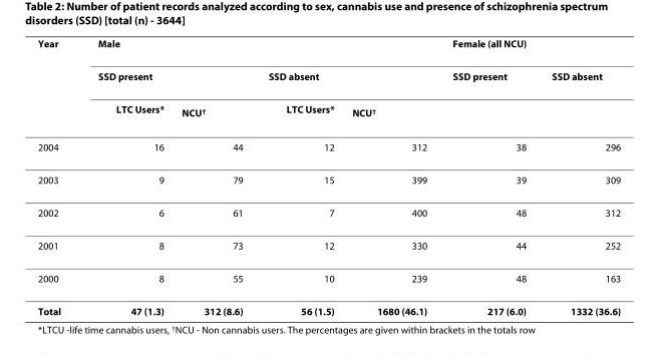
<table><thead><tr><td rowspan="3">Year</td><td colspan="4">Male</td><td colspan="2">Female (all NCU)</td></tr><tr><td colspan="2">SSD present</td><td colspan="2">SSD absent</td><td rowspan="2">SSD present</td><td rowspan="2">SSD absent</td></tr><tr><td>LTC Users*</td><td>NCU<sup>†</sup></td><td>LTC Users*</td><td>NCU<sup>†</sup></td></tr></thead><tbody><tr><td>2004</td><td>16</td><td>44</td><td>12</td><td>312</td><td>38</td><td>296</td></tr><tr><td>2003</td><td>9</td><td>79</td><td>15</td><td>399</td><td>39</td><td>309</td></tr><tr><td>2002</td><td>6</td><td>61</td><td>7</td><td>400</td><td>48</td><td>312</td></tr><tr><td>2001</td><td>8</td><td>73</td><td>12</td><td>330</td><td>44</td><td>252</td></tr><tr><td>2000</td><td>8</td><td>55</td><td>10</td><td>239</td><td>48</td><td>163</td></tr><tr><td>Total</td><td>47 (1.3)</td><td>312 (8.6)</td><td>56 (1.5)</td><td>1680 (46.1)</td><td>217 (6.0)</td><td>1332 (36.6)</td></tr></tbody></table>